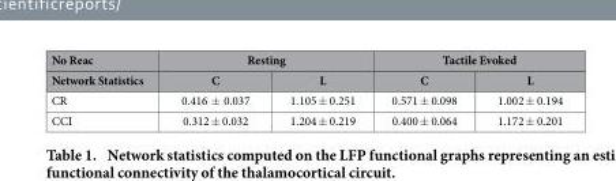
<table><thead><tr><td rowspan="2">No Reac Network Statistics</td><td colspan="2">Resting</td><td colspan="2">Tactile Evoked</td></tr><tr><td>C</td><td>L</td><td>C</td><td>L</td></tr></thead><tbody><tr><td>CR</td><td>0.416 ± 0.037</td><td>1.105 ± 0.251</td><td>0.571 ± 0.098</td><td>1.002 ± 0.194</td></tr><tr><td>CCI</td><td>0.312 ± 0.032</td><td>1.204 ± 0.219</td><td>0.400 ± 0.064</td><td>1.172 ± 0.201</td></tr></tbody></table>